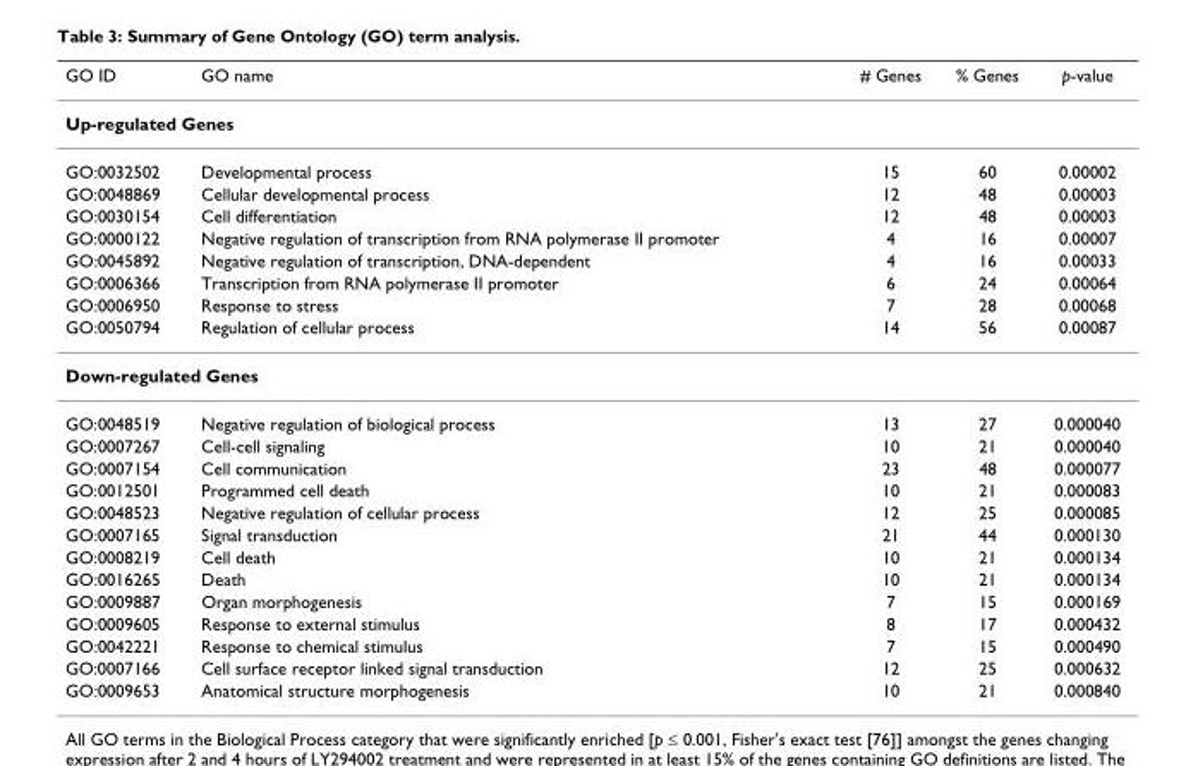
<table><thead><tr><td>GO ID</td><td>GO name</td><td># Genes</td><td>% Genes</td><td>p-value</td></tr></thead><tbody><tr><td colspan="5">Up-regulated Genes</td></tr><tr><td>GO:0032502</td><td>Developmental process</td><td>15</td><td>60</td><td>0.00002</td></tr><tr><td>GO:0048869</td><td>Cellular developmental process</td><td>12</td><td>48</td><td>0.00003</td></tr><tr><td>GO:0030154</td><td>Cell differentiation</td><td>12</td><td>48</td><td>0.00003</td></tr><tr><td>GO:0000122</td><td>Negative regulation of transcription from RNA polymerase II promoter</td><td>4</td><td>16</td><td>0.00007</td></tr><tr><td>GO:0045892</td><td>Negative regulation of transcription, DNA-dependent</td><td>4</td><td>16</td><td>0.00033</td></tr><tr><td>GO:0006366</td><td>Transcription from RNA polymerase II promoter</td><td>6</td><td>24</td><td>0.00064</td></tr><tr><td>GO:0006950</td><td>Response to stress</td><td>7</td><td>28</td><td>0.00068</td></tr><tr><td>GO:0050794</td><td>Regulation of cellular process</td><td>14</td><td>56</td><td>0.00087</td></tr><tr><td colspan="5">Down-regulated Genes</td></tr><tr><td>GO:0048519</td><td>Negative regulation of biological process</td><td>13</td><td>27</td><td>0.000040</td></tr><tr><td>GO:0007267</td><td>Cell-cell signaling</td><td>10</td><td>21</td><td>0.000040</td></tr><tr><td>GO:0007154</td><td>Cell communication</td><td>23</td><td>48</td><td>0.000077</td></tr><tr><td>GO:0012501</td><td>Programmed cell death</td><td>10</td><td>21</td><td>0.000083</td></tr><tr><td>GO:0048523</td><td>Negative regulation of cellular process</td><td>12</td><td>25</td><td>0.000085</td></tr><tr><td>GO:0007165</td><td>Signal transduction</td><td>21</td><td>44</td><td>0.000130</td></tr><tr><td>GO:0008219</td><td>Cell death</td><td>10</td><td>21</td><td>0.000134</td></tr><tr><td>GO:0016265</td><td>Death</td><td>10</td><td>21</td><td>0.000134</td></tr><tr><td>GO:0009887</td><td>Organ morphogenesis</td><td>7</td><td>15</td><td>0.000169</td></tr><tr><td>GO:0009605</td><td>Response to external stimulus</td><td>8</td><td>17</td><td>0.000432</td></tr><tr><td>GO:0042221</td><td>Response to chemical stimulus</td><td>7</td><td>15</td><td>0.000490</td></tr><tr><td>GO:0007166</td><td>Cell surface receptor linked signal transduction</td><td>12</td><td>25</td><td>0.000632</td></tr><tr><td>GO:0009653</td><td>Anatomical structure morphogenesis</td><td>10</td><td>21</td><td>0.000840</td></tr></tbody></table>